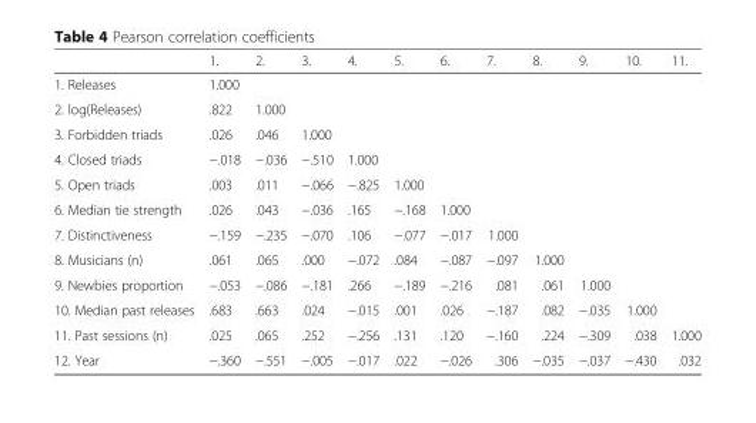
<table><thead><tr><td></td><td>1.</td><td>2.</td><td>3.</td><td>4.</td><td>5.</td><td>6.</td><td>7.</td><td>8.</td><td>9.</td><td>10.</td><td>11.</td></tr></thead><tbody><tr><td>1. Releases</td><td>1.000</td><td></td><td></td><td></td><td></td><td></td><td></td><td></td><td></td><td></td><td></td></tr><tr><td>2. log(Releases)</td><td>.822</td><td>1.000</td><td></td><td></td><td></td><td></td><td></td><td></td><td></td><td></td><td></td></tr><tr><td>3. Forbidden triads</td><td>.026</td><td>.046</td><td>1.000</td><td></td><td></td><td></td><td></td><td></td><td></td><td></td><td></td></tr><tr><td>4. Closed triads</td><td>−.018</td><td>−.036</td><td>−.510</td><td>1.000</td><td></td><td></td><td></td><td></td><td></td><td></td><td></td></tr><tr><td>5. Open triads</td><td>.003</td><td>.011</td><td>−.066</td><td>−.825</td><td>1.000</td><td></td><td></td><td></td><td></td><td></td><td></td></tr><tr><td>6. Median tie strength</td><td>.026</td><td>.043</td><td>−.036</td><td>.165</td><td>−.168</td><td>1.000</td><td></td><td></td><td></td><td></td><td></td></tr><tr><td>7. Distinctiveness</td><td>−.159</td><td>−.235</td><td>−.070</td><td>.106</td><td>−.077</td><td>−.017</td><td>1.000</td><td></td><td></td><td></td><td></td></tr><tr><td>8. Musicians (n)</td><td>.061</td><td>.065</td><td>.000</td><td>−.072</td><td>.084</td><td>−.087</td><td>−.097</td><td>1.000</td><td></td><td></td><td></td></tr><tr><td>9. Newbies proportion</td><td>−.053</td><td>−.086</td><td>−.181</td><td>.266</td><td>−.189</td><td>−.216</td><td>.081</td><td>.061</td><td>1.000</td><td></td><td></td></tr><tr><td>10. Median past releases</td><td>.683</td><td>.663</td><td>.024</td><td>−.015</td><td>.001</td><td>.026</td><td>−.187</td><td>.082</td><td>−.035</td><td>1.000</td><td></td></tr><tr><td>11. Past sessions (n)</td><td>.025</td><td>.065</td><td>.252</td><td>−.256</td><td>.131</td><td>.120</td><td>−.160</td><td>.224</td><td>−.309</td><td>.038</td><td>1.000</td></tr><tr><td>12. Year</td><td>−.360</td><td>−.551</td><td>−.005</td><td>−.017</td><td>.022</td><td>−.026</td><td>.306</td><td>−.035</td><td>−.037</td><td>−.430</td><td>.032</td></tr></tbody></table>